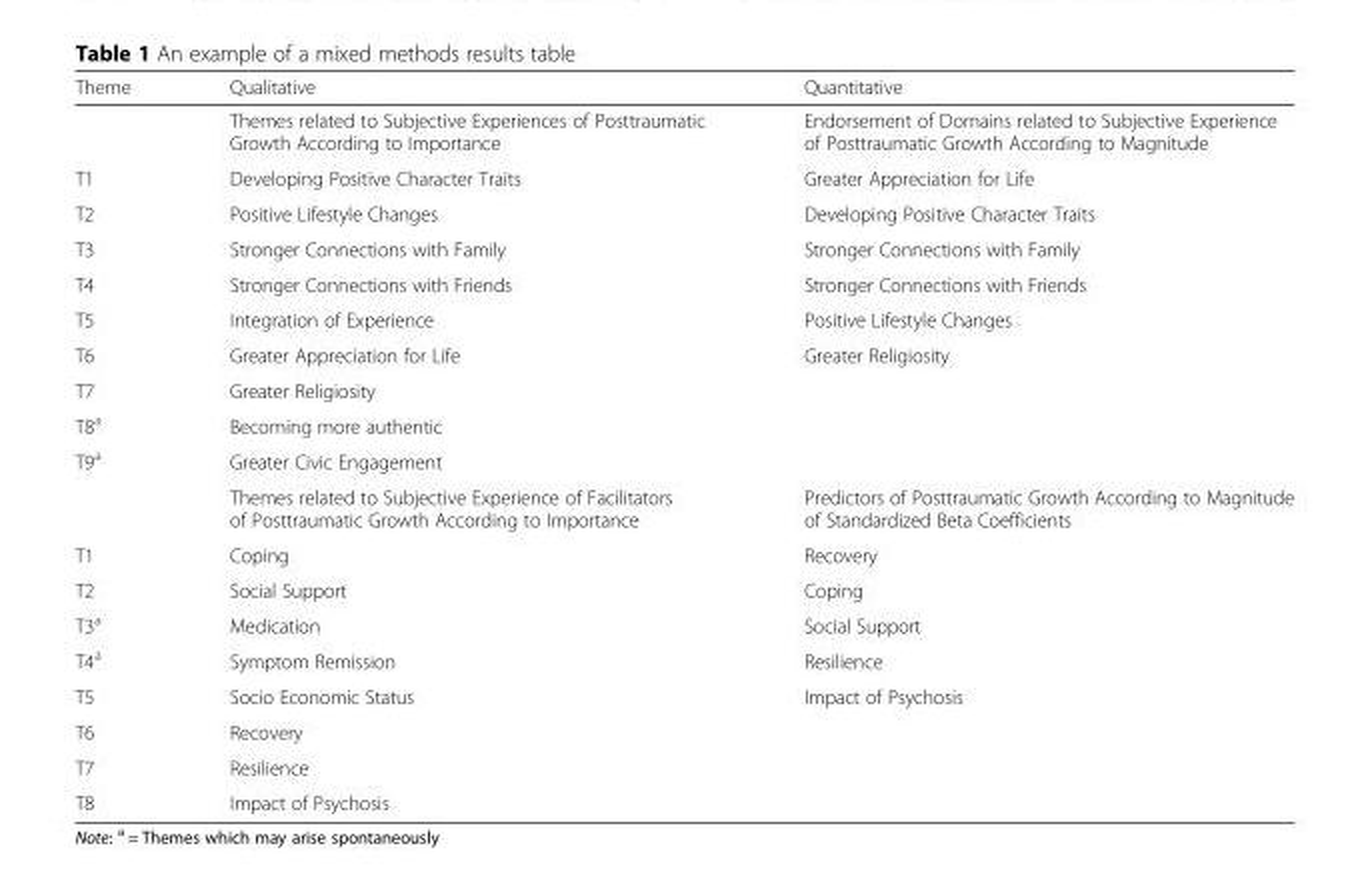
<table><thead><tr><td>Theme</td><td>Qualitative</td><td>Quantitative</td></tr></thead><tbody><tr><td></td><td>Themes related to Subjective Experiences of Posttraumatic Growth According to Importance</td><td>Endorsement of Domains related to Subjective Experience of Posttraumatic Growth According to Magnitude</td></tr><tr><td>T1</td><td>Developing Positive Character Traits</td><td>Greater Appreciation for Life</td></tr><tr><td>T2</td><td>Positive Lifestyle Changes</td><td>Developing Positive Character Traits</td></tr><tr><td>T3</td><td>Stronger Connections with Family</td><td>Stronger Connections with Family</td></tr><tr><td>T4</td><td>Stronger Connections with Friends</td><td>Stronger Connections with Friends</td></tr><tr><td>T5</td><td>Integration of Experience</td><td>Positive Lifestyle Changes</td></tr><tr><td>T6</td><td>Greater Appreciation for Life</td><td>Greater Religiosity</td></tr><tr><td>T7</td><td>Greater Religiosity</td><td></td></tr><tr><td>T8<sup>a</sup></td><td>Becoming more authentic</td><td></td></tr><tr><td rowspan="2">T9<sup>a</sup></td><td>Greater Civic Engagement</td><td></td></tr><tr><td>Themes related to Subjective Experience of Facilitators of Posttraumatic Growth According to Importance</td><td>Predictors of Posttraumatic Growth According to Magnitude of Standardized Beta Coefficients</td></tr><tr><td>T1</td><td>Coping</td><td>Recovery</td></tr><tr><td>T2</td><td>Social Support</td><td>Coping</td></tr><tr><td>T3<sup>a</sup></td><td>Medication</td><td>Social Support</td></tr><tr><td>T4<sup>a</sup></td><td>Symptom Remission</td><td>Resilience</td></tr><tr><td>T5</td><td>Socio Economic Status</td><td>Impact of Psychosis</td></tr><tr><td>T6</td><td>Recovery</td><td></td></tr><tr><td>T7</td><td>Resilience</td><td></td></tr><tr><td>T8</td><td>Impact of Psychosis</td><td></td></tr></tbody></table>